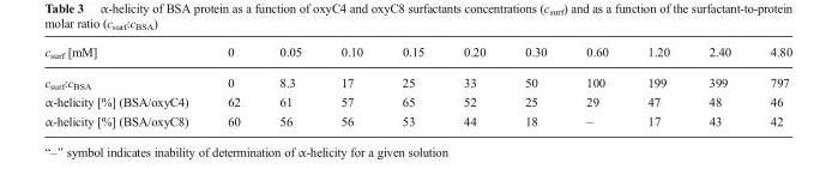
<table><thead><tr><td>c<sub>surf</sub> [mM]</td><td>0</td><td>0.05</td><td>0.10</td><td>0.15</td><td>0.20</td><td>0.30</td><td>0.60</td><td>1.20</td><td>2.40</td><td>4.80</td></tr></thead><tbody><tr><td>c<sub>surf</sub>:c<sub>BSA</sub></td><td>0</td><td>8.3</td><td>17</td><td>25</td><td>33</td><td>50</td><td>100</td><td>199</td><td>399</td><td>797</td></tr><tr><td>α-helicity [%] (BSA/oxyC4)</td><td>62</td><td>61</td><td>57</td><td>65</td><td>52</td><td>25</td><td>29</td><td>47</td><td>48</td><td>46</td></tr><tr><td>α-helicity [%] (BSA/oxyC8)</td><td>60</td><td>56</td><td>56</td><td>53</td><td>44</td><td>18</td><td>–</td><td>17</td><td>43</td><td>42</td></tr></tbody></table>